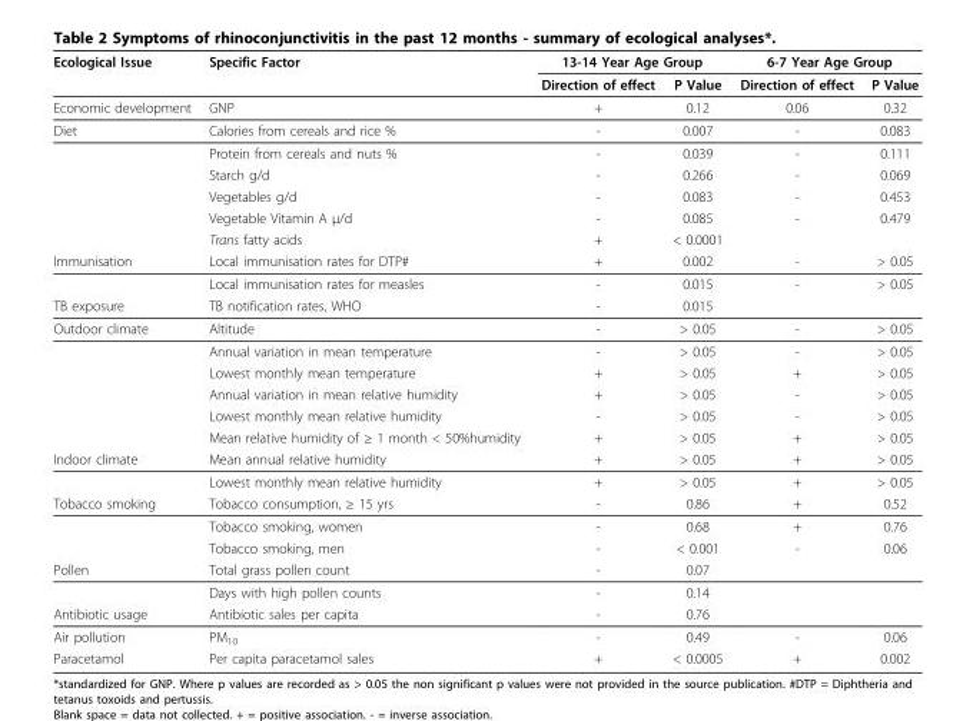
<table><thead><tr><td rowspan="2">Ecological Issue</td><td rowspan="2">Specific Factor</td><td colspan="2">13-14 Year Age Group</td><td colspan="2">6-7 Year Age Group</td></tr><tr><td>Direction of effect</td><td>P Value</td><td>Direction of effect</td><td>P Value</td></tr></thead><tbody><tr><td>Economic development</td><td>GNP</td><td>+</td><td>0.12</td><td>0.06</td><td>0.32</td></tr><tr><td rowspan="6">Diet</td><td>Calories from cereals and rice %</td><td>-</td><td>0.007</td><td>-</td><td>0.083</td></tr><tr><td>Protein from cereals and nuts %</td><td>-</td><td>0.039</td><td>-</td><td>0.111</td></tr><tr><td>Starch g/d</td><td>-</td><td>0.266</td><td>-</td><td>0.069</td></tr><tr><td>Vegetables g/d</td><td>-</td><td>0.083</td><td>-</td><td>0.453</td></tr><tr><td>Vegetable Vitamin A μ/d</td><td>-</td><td>0.085</td><td>-</td><td>0.479</td></tr><tr><td>Trans fatty acids</td><td>+</td><td>&lt; 0.0001</td><td></td><td></td></tr><tr><td rowspan="2">Immunisation</td><td>Local immunisation rates for DTP#</td><td>+</td><td>0.002</td><td>-</td><td>&gt; 0.05</td></tr><tr><td>Local immunisation rates for measles</td><td>-</td><td>0.015</td><td>-</td><td>&gt; 0.05</td></tr><tr><td>TB exposure</td><td>TB notification rates, WHO</td><td>-</td><td>0.015</td><td></td><td></td></tr><tr><td rowspan="6">Outdoor climate</td><td>Altitude</td><td>-</td><td>&gt; 0.05</td><td>-</td><td>&gt; 0.05</td></tr><tr><td>Annual variation in mean temperature</td><td>-</td><td>&gt; 0.05</td><td>-</td><td>&gt; 0.05</td></tr><tr><td>Lowest monthly mean temperature</td><td>+</td><td>&gt; 0.05</td><td>+</td><td>&gt; 0.05</td></tr><tr><td>Annual variation in mean relative humidity</td><td>+</td><td>&gt; 0.05</td><td>-</td><td>&gt; 0.05</td></tr><tr><td>Lowest monthly mean relative humidity</td><td>-</td><td>&gt; 0.05</td><td>-</td><td>&gt; 0.05</td></tr><tr><td>Mean relative humidity of ≥ 1 month &lt; 50%humidity</td><td>+</td><td>&gt; 0.05</td><td>+</td><td>&gt; 0.05</td></tr><tr><td rowspan="2">Indoor climate</td><td>Mean annual relative humidity</td><td>+</td><td>&gt; 0.05</td><td>+</td><td>&gt; 0.05</td></tr><tr><td>Lowest monthly mean relative humidity</td><td>+</td><td>&gt; 0.05</td><td>+</td><td>&gt; 0.05</td></tr><tr><td rowspan="3">Tobacco smoking</td><td>Tobacco consumption, ≥ 15 yrs</td><td>-</td><td>0.86</td><td>+</td><td>0.52</td></tr><tr><td>Tobacco smoking, women</td><td>-</td><td>0.68</td><td>+</td><td>0.76</td></tr><tr><td>Tobacco smoking, men</td><td>-</td><td>&lt; 0.001</td><td>-</td><td>0.06</td></tr><tr><td rowspan="2">Pollen</td><td>Total grass pollen count</td><td>-</td><td>0.07</td><td></td><td></td></tr><tr><td>Days with high pollen counts</td><td>-</td><td>0.14</td><td></td><td></td></tr><tr><td>Antibiotic usage</td><td>Antibiotic sales per capita</td><td>-</td><td>0.76</td><td></td><td></td></tr><tr><td>Air pollution</td><td>PM10</td><td>-</td><td>0.49</td><td>-</td><td>0.06</td></tr><tr><td>Paracetamol</td><td>Per capita paracetamol sales</td><td>+</td><td>&lt; 0.0005</td><td>+</td><td>0.002</td></tr></tbody></table>